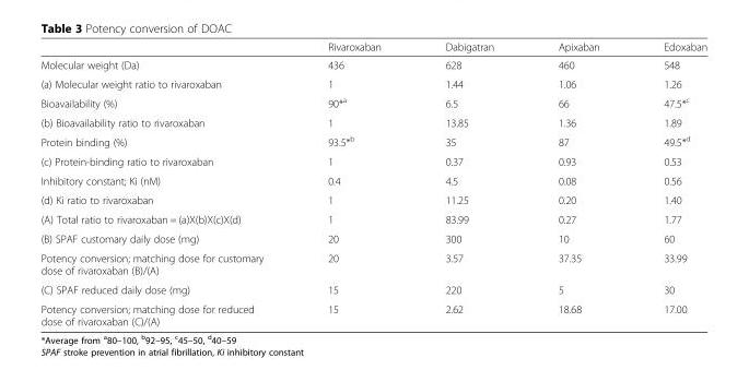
<table><thead><tr><td></td><td>Rivaroxaban</td><td>Dabigatran</td><td>Apixaban</td><td>Edoxaban</td></tr></thead><tbody><tr><td>Molecular weight (Da)</td><td>436</td><td>628</td><td>460</td><td>548</td></tr><tr><td>(a) Molecular weight ratio to rivaroxaban</td><td>1</td><td>1.44</td><td>1.06</td><td>1.26</td></tr><tr><td>Bioavailability (%)</td><td>90*<sup>a</sup></td><td>6.5</td><td>66</td><td>47.5*<sup>c</sup></td></tr><tr><td>(b) Bioavailability ratio to rivaroxaban</td><td>1</td><td>13.85</td><td>1.36</td><td>1.89</td></tr><tr><td>Protein binding (%)</td><td>93.5*<sup>b</sup></td><td>35</td><td>87</td><td>49.5*<sup>d</sup></td></tr><tr><td>(c) Protein-binding ratio to rivaroxaban</td><td>1</td><td>0.37</td><td>0.93</td><td>0.53</td></tr><tr><td>Inhibitory constant; Ki (nM)</td><td>0.4</td><td>4.5</td><td>0.08</td><td>0.56</td></tr><tr><td>(d) Ki ratio to rivaroxaban</td><td>1</td><td>11.25</td><td>0.20</td><td>1.40</td></tr><tr><td>(A) Total ratio to rivaroxaban = (a)X(b)X(c)X(d)</td><td>1</td><td>83.99</td><td>0.27</td><td>1.77</td></tr><tr><td>(B) SPAF customary daily dose (mg)</td><td>20</td><td>300</td><td>10</td><td>60</td></tr><tr><td>Potency conversion; matching dose for customary dose of rivaroxaban (B)/(A)</td><td>20</td><td>3.57</td><td>37.35</td><td>33.99</td></tr><tr><td>(C) SPAF reduced daily dose (mg)</td><td>15</td><td>220</td><td>5</td><td>30</td></tr><tr><td>Potency conversion; matching dose for reduced dose of rivaroxaban (C)/(A)</td><td>15</td><td>2.62</td><td>18.68</td><td>17.00</td></tr></tbody></table>